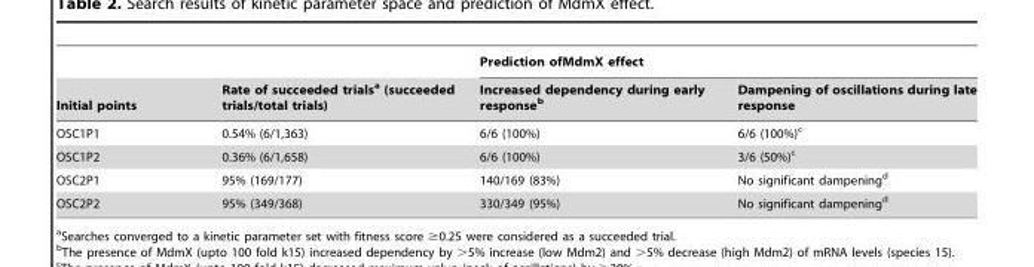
<table><thead><tr><td rowspan="2">Initial points</td><td rowspan="2">Rate of succeeded trials<sup>a</sup> (succeeded trials/total trials)</td><td colspan="2">Prediction ofMdmX effect</td></tr><tr><td>Increased dependency during early response<sup>b</sup></td><td>Dampening of oscillations during late response</td></tr></thead><tbody><tr><td>OSC1P1</td><td>0.54% (6/1,363)</td><td>6/6 (100%)</td><td>6/6 (100%)<sup>c</sup></td></tr><tr><td>OSC1P2</td><td>0.36% (6/1,658)</td><td>6/6 (100%)</td><td>3/6 (50%)<sup>c</sup></td></tr><tr><td>OSC2P1</td><td>95% (169/177)</td><td>140/169 (83%)</td><td>No significant dampening<sup>d</sup></td></tr><tr><td>OSC2P2</td><td>95% (349/368)</td><td>330/349 (95%)</td><td>No significant dampening<sup>d</sup></td></tr></tbody></table>